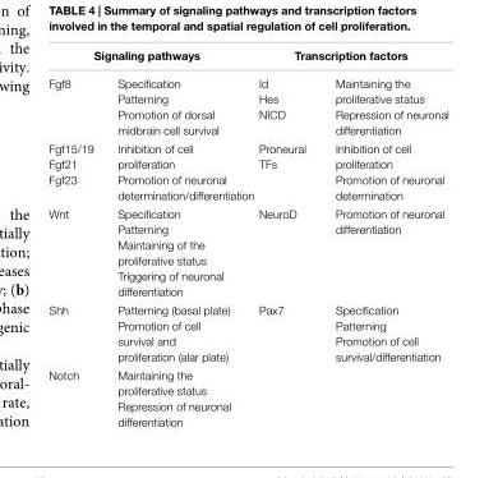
<table><thead><tr><td colspan="2">Signaling pathways</td><td colspan="2">Transcription factors</td></tr><tr><td>Fgf8</td><td>Specification Patterning Promotion of dorsal midbrain cell survival</td><td>Id Hes NICD</td><td>Maintaining the proliferative status Repression of neuronal differentiation</td></tr></thead><tbody><tr><td>Fgf15/19 Fgf21 Fgf23</td><td>Inhibition of cell proliferation Promotion of neuronal determination/differentiation</td><td>Proneural TFs</td><td>Inhibition of cell proliferation Promotion of neuronal determination</td></tr><tr><td>Wnt</td><td>Specification Patterning Maintaining of the proliferative status Triggering of neuronal differentiation</td><td>NeuroD</td><td>Promotion of neuronal differentiation</td></tr><tr><td>Shh</td><td>Patterning (basal plate) Promotion of cell survival and proliferation (alar plate)</td><td>Pax7</td><td>Specification Patterning Promotion of cell survival/differentiation</td></tr><tr><td>Notch</td><td>Maintaining the proliferative status Repression of neuronal differentiation</td><td></td><td></td></tr></tbody></table>